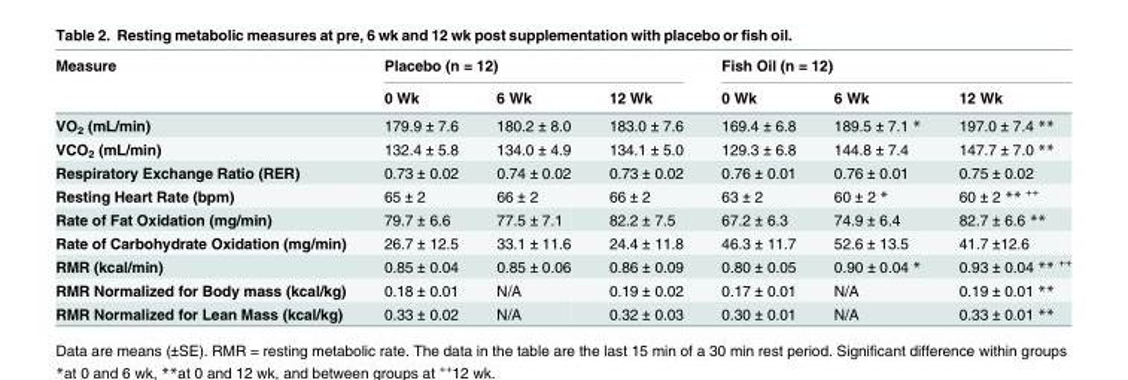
<table><thead><tr><td rowspan="2">Measure</td><td colspan="3">Placebo (n = 12)</td><td colspan="3">Fish Oil (n = 12)</td></tr><tr><td>0 Wk</td><td>6 Wk</td><td>12 Wk</td><td>0 Wk</td><td>6 Wk</td><td>12 Wk</td></tr></thead><tbody><tr><td>VO<sub>2</sub> (mL/min)</td><td>179.9 ± 7.6</td><td>180.2 ± 8.0</td><td>183.0 ± 7.6</td><td>169.4 ± 6.8</td><td>189.5 ± 7.1 *</td><td>197.0 ± 7.4 **</td></tr><tr><td>VCO<sub>2</sub> (mL/min)</td><td>132.4 ± 5.8</td><td>134.0 ± 4.9</td><td>134.1 ± 5.0</td><td>129.3 ± 6.8</td><td>144.8 ± 7.4</td><td>147.7 ± 7.0 **</td></tr><tr><td>Respiratory Exchange Ratio (RER)</td><td>0.73 ± 0.02</td><td>0.74 ± 0.02</td><td>0.73 ± 0.02</td><td>0.76 ± 0.01</td><td>0.76 ± 0.01</td><td>0.75 ± 0.02</td></tr><tr><td>Resting Heart Rate (bpm)</td><td>65 ± 2</td><td>66 ± 2</td><td>66 ± 2</td><td>63 ± 2</td><td>60 ± 2 *</td><td>60 ± 2 ** <sup>++</sup></td></tr><tr><td>Rate of Fat Oxidation (mg/min)</td><td>79.7 ± 6.6</td><td>77.5 ± 7.1</td><td>82.2 ± 7.5</td><td>67.2 ± 6.3</td><td>74.9 ± 6.4</td><td>82.7 ± 6.6 **</td></tr><tr><td>Rate of Carbohydrate Oxidation (mg/min)</td><td>26.7 ± 12.5</td><td>33.1 ± 11.6</td><td>24.4 ± 11.8</td><td>46.3 ± 11.7</td><td>52.6 ± 13.5</td><td>41.7 ±12.6</td></tr><tr><td>RMR (kcal/min)</td><td>0.85 ± 0.04</td><td>0.85 ± 0.06</td><td>0.86 ± 0.09</td><td>0.80 ± 0.05</td><td>0.90 ± 0.04 *</td><td>0.93 ± 0.04 ** <sup>++</sup></td></tr><tr><td>RMR Normalized for Body mass (kcal/kg)</td><td>0.18 ± 0.01</td><td>N/A</td><td>0.19 ± 0.02</td><td>0.17 ± 0.01</td><td>N/A</td><td>0.19 ± 0.01 **</td></tr><tr><td>RMR Normalized for Lean Mass (kcal/kg)</td><td>0.33 ± 0.02</td><td>N/A</td><td>0.32 ± 0.03</td><td>0.30 ± 0.01</td><td>N/A</td><td>0.33 ± 0.01 **</td></tr></tbody></table>